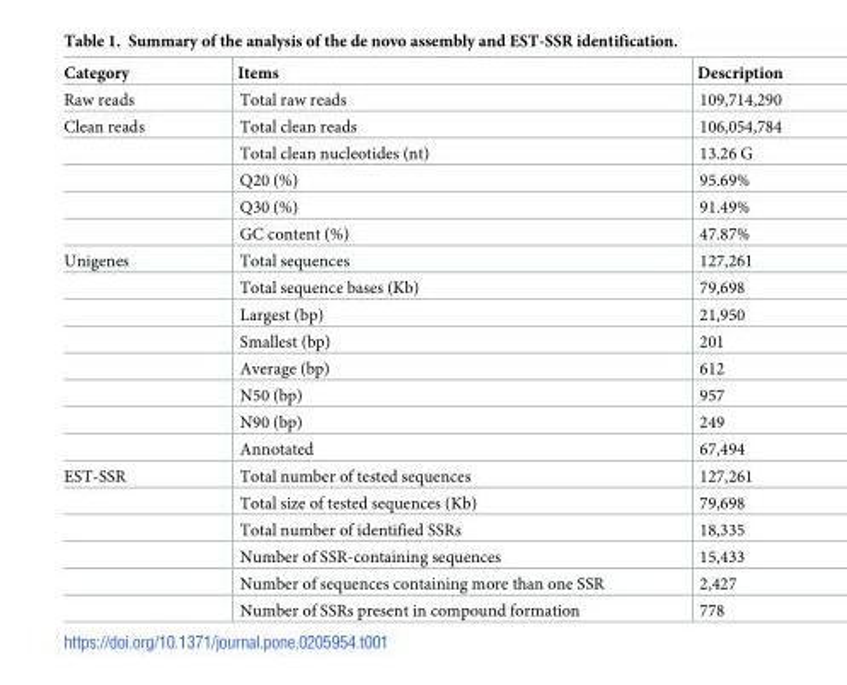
<table><thead><tr><td>Category</td><td>Items</td><td>Description</td></tr></thead><tbody><tr><td>Raw reads</td><td>Total raw reads</td><td>109,714,290</td></tr><tr><td rowspan="5">Clean reads</td><td>Total clean reads</td><td>106,054,784</td></tr><tr><td>Total clean nucleotides (nt)</td><td>13.26 G</td></tr><tr><td>Q20 (%)</td><td>95.69%</td></tr><tr><td>Q30 (%)</td><td>91.49%</td></tr><tr><td>GC content (%)</td><td>47.87%</td></tr><tr><td rowspan="8">Unigenes</td><td>Total sequences</td><td>127,261</td></tr><tr><td>Total sequence bases (Kb)</td><td>79,698</td></tr><tr><td>Largest (bp)</td><td>21,950</td></tr><tr><td>Smallest (bp)</td><td>201</td></tr><tr><td>Average (bp)</td><td>612</td></tr><tr><td>N50 (bp)</td><td>957</td></tr><tr><td>N90 (bp)</td><td>249</td></tr><tr><td>Annotated</td><td>67,494</td></tr><tr><td rowspan="6">EST-SSR</td><td>Total number of tested sequences</td><td>127,261</td></tr><tr><td>Total size of tested sequences (Kb)</td><td>79,698</td></tr><tr><td>Total number of identified SSRs</td><td>18,335</td></tr><tr><td>Number of SSR-containing sequences</td><td>15,433</td></tr><tr><td>Number of sequences containing more than one SSR</td><td>2,427</td></tr><tr><td>Number of SSRs present in compound formation</td><td>778</td></tr></tbody></table>